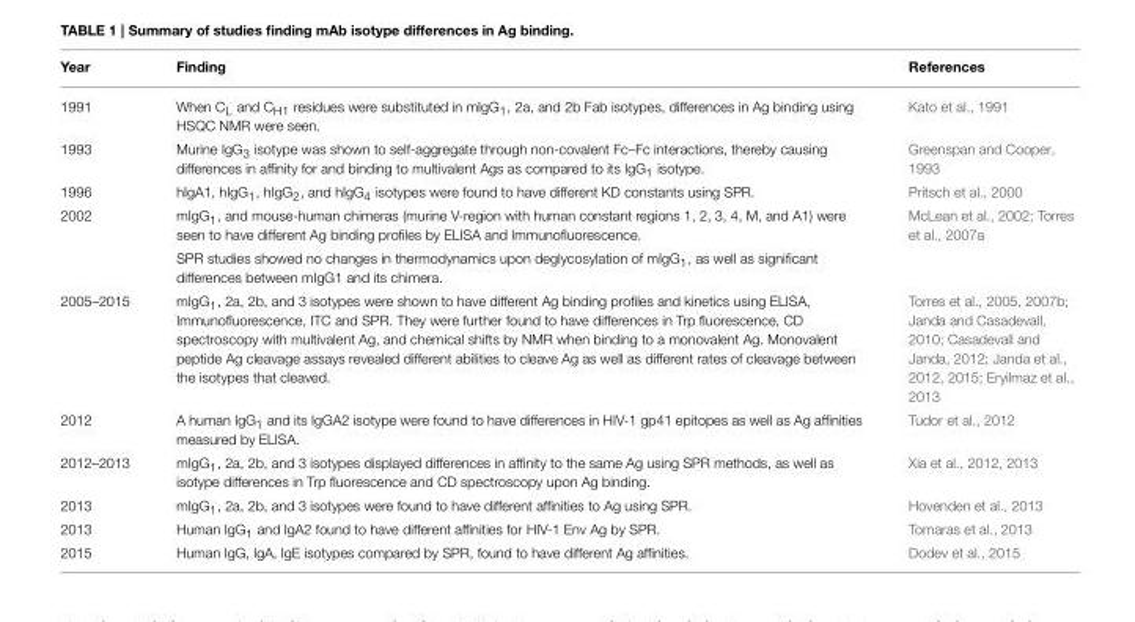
<table><thead><tr><td>Year</td><td>Finding</td><td>References</td></tr></thead><tbody><tr><td>1991</td><td>When C<sub>L</sub> and C<sub>H1</sub> residues were substituted in mIgG<sub>1</sub>, 2a, and 2b Fab isotypes, differences in Ag binding using HSQC NMR were seen.</td><td>Kato et al., 1991</td></tr><tr><td>1993</td><td>Murine IgG<sub>3</sub> isotype was shown to self-aggregate through non-covalent Fc–Fc interactions, thereby causing differences in affinity for and binding to multivalent Ags as compared to its IgG<sub>1</sub> isotype.</td><td>Greenspan and Cooper, 1993</td></tr><tr><td>1996</td><td>hIgA1, hIgG<sub>1</sub>, hIgG<sub>2</sub>, and hIgG<sub>4</sub> isotypes were found to have different KD constants using SPR.</td><td>Pritsch et al., 2000</td></tr><tr><td rowspan="2">2002</td><td>mIgG<sub>1</sub>, and mouse-human chimeras (murine V-region with human constant regions 1, 2, 3, 4, M, and A1) were seen to have different Ag binding profiles by ELISA and Immunofluorescence.</td><td>McLean et al., 2002; Torres et al., 2007a</td></tr><tr><td>SPR studies showed no changes in thermodynamics upon deglycosylation of mIgG<sub>1</sub>, as well as significant differences between mIgG1 and its chimera.</td><td></td></tr><tr><td>2005–2015</td><td>mIgG<sub>1</sub>, 2a, 2b, and 3 isotypes were shown to have different Ag binding profiles and kinetics using ELISA, Immunofluorescence, ITC and SPR. They were further found to have differences in Trp fluorescence, CD spectroscopy with multivalent Ag, and chemical shifts by NMR when binding to a monovalent Ag. Monovalent peptide Ag cleavage assays revealed different abilities to cleave Ag as well as different rates of cleavage between the isotypes that cleaved.</td><td>Torres et al., 2005, 2007b; Janda and Casadevall, 2010; Casadevall and Janda, 2012; Janda et al., 2012, 2015; Eryilmaz et al., 2013</td></tr><tr><td>2012</td><td>A human IgG<sub>1</sub> and its IgGA2 isotype were found to have differences in HIV-1 gp41 epitopes as well as Ag affinities measured by ELISA.</td><td>Tudor et al., 2012</td></tr><tr><td>2012–2013</td><td>mIgG<sub>1</sub>, 2a, 2b, and 3 isotypes displayed differences in affinity to the same Ag using SPR methods, as well as isotype differences in Trp fluorescence and CD spectroscopy upon Ag binding.</td><td>Xia et al., 2012, 2013</td></tr><tr><td>2013</td><td>mIgG<sub>1</sub>, 2a, 2b, and 3 isotypes were found to have different affinities to Ag using SPR.</td><td>Hovenden et al., 2013</td></tr><tr><td>2013</td><td>Human IgG<sub>1</sub> and IgA2 found to have different affinities for HIV-1 Env Ag by SPR.</td><td>Tomaras et al., 2013</td></tr><tr><td>2015</td><td>Human IgG, IgA, IgE isotypes compared by SPR, found to have different Ag affinities.</td><td>Dodev et al., 2015</td></tr></tbody></table>